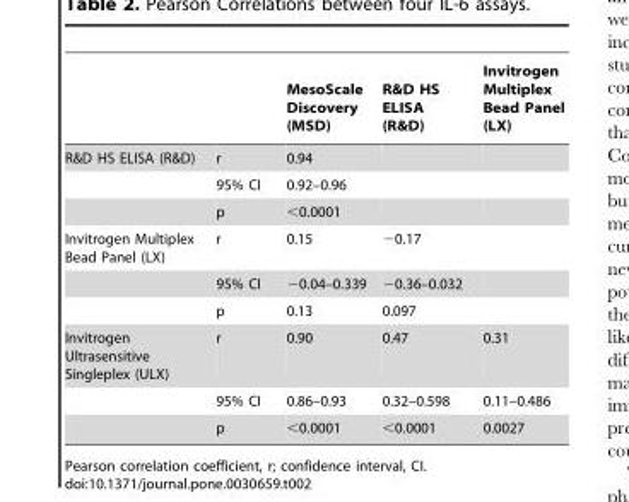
<table><thead><tr><td></td><td></td><td>MesoScale Discovery (MSD)</td><td>R&amp;D HS ELISA (R&amp;D)</td><td>Invitrogen Multiplex Bead Panel (LX)</td></tr></thead><tbody><tr><td rowspan="3">R&amp;D HS ELISA (R&amp;D)</td><td>r</td><td>0.94</td><td></td><td></td></tr><tr><td>95% CI</td><td>0.92–0.96</td><td></td><td></td></tr><tr><td>p</td><td>&lt;0.0001</td><td></td><td></td></tr><tr><td rowspan="3">Invitrogen Multiplex Bead Panel (LX)</td><td>r</td><td>0.15</td><td>−0.17</td><td></td></tr><tr><td>95% CI</td><td>−0.04–0.339</td><td>−0.36–0.032</td><td></td></tr><tr><td>p</td><td>0.13</td><td>0.097</td><td></td></tr><tr><td rowspan="3">Invitrogen Ultrasensitive Singleplex (ULX)</td><td>r</td><td>0.90</td><td>0.47</td><td>0.31</td></tr><tr><td>95% CI</td><td>0.86–0.93</td><td>0.32–0.598</td><td>0.11–0.486</td></tr><tr><td>p</td><td>&lt;0.0001</td><td>&lt;0.0001</td><td>0.0027</td></tr></tbody></table>